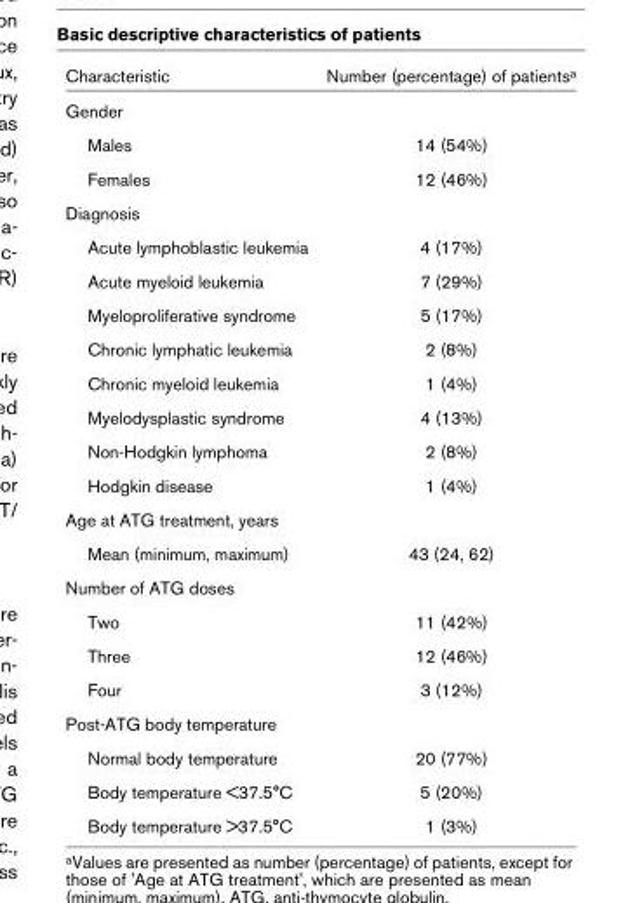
<table><thead><tr><td>Characteristic</td><td>Number (percentage) of patients<sup>a</sup></td></tr></thead><tbody><tr><td colspan="2">Gender</td></tr><tr><td>Males</td><td>14 (54%)</td></tr><tr><td>Females</td><td>12 (46%)</td></tr><tr><td colspan="2">Diagnosis</td></tr><tr><td>Acute lymphoblastic leukemia</td><td>4 (17%)</td></tr><tr><td>Acute myeloid leukemia</td><td>7 (29%)</td></tr><tr><td>Myeloproliferative syndrome</td><td>5 (17%)</td></tr><tr><td>Chronic lymphatic leukemia</td><td>2 (8%)</td></tr><tr><td>Chronic myeloid leukemia</td><td>1 (4%)</td></tr><tr><td>Myelodysplastic syndrome</td><td>4 (13%)</td></tr><tr><td>Non-Hodgkin lymphoma</td><td>2 (8%)</td></tr><tr><td>Hodgkin disease</td><td>1 (4%)</td></tr><tr><td colspan="2">Age at ATG treatment, years</td></tr><tr><td>Mean (minimum, maximum)</td><td>43 (24, 62)</td></tr><tr><td colspan="2">Number of ATG doses</td></tr><tr><td>Two</td><td>11 (42%)</td></tr><tr><td>Three</td><td>12 (46%)</td></tr><tr><td>Four</td><td>3 (12%)</td></tr><tr><td colspan="2">Post-ATG body temperature</td></tr><tr><td>Normal body temperature</td><td>20 (77%)</td></tr><tr><td>Body temperature &lt;37.5°C</td><td>5 (20%)</td></tr><tr><td>Body temperature &gt;37.5°C</td><td>1 (3%)</td></tr></tbody></table>